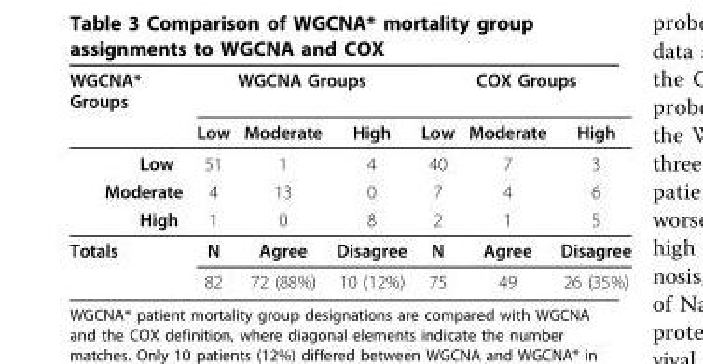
<table><thead><tr><td rowspan="2">WGCNA* Groups</td><td colspan="3">WGCNA Groups</td><td colspan="3">COX Groups</td></tr><tr><td>Low</td><td>Moderate</td><td>High</td><td>Low</td><td>Moderate</td><td>High</td></tr></thead><tbody><tr><td>Low</td><td>51</td><td>1</td><td>4</td><td>40</td><td>7</td><td>3</td></tr><tr><td>Moderate</td><td>4</td><td>13</td><td>0</td><td>7</td><td>4</td><td>6</td></tr><tr><td>High</td><td>1</td><td>0</td><td>8</td><td>2</td><td>1</td><td>5</td></tr><tr><td rowspan="2">Totals</td><td>N</td><td>Agree</td><td>Disagree</td><td>N</td><td>Agree</td><td>Disagree</td></tr><tr><td>82</td><td>72 (88%)</td><td>10 (12%)</td><td>75</td><td>49</td><td>26 (35%)</td></tr></tbody></table>